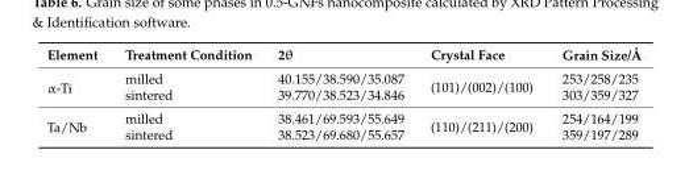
<table><thead><tr><td>Element</td><td>Treatment Condition</td><td>2θ</td><td>Crystal Face</td><td>Grain Size/Å</td></tr></thead><tbody><tr><td rowspan="2">α-Ti</td><td>milled</td><td>40.155/38.590/35.087</td><td rowspan="2">(101)/(002)/(100)</td><td>253/258/235</td></tr><tr><td>sintered</td><td>39.770/38.523/34.846</td><td>303/359/327</td></tr><tr><td rowspan="2">Ta/Nb</td><td>milled</td><td>38.461/69.593/55.649</td><td rowspan="2">(110)/(211)/(200)</td><td>254/164/199</td></tr><tr><td>sintered</td><td>38.523/69.680/55.657</td><td>359/197/289</td></tr></tbody></table>